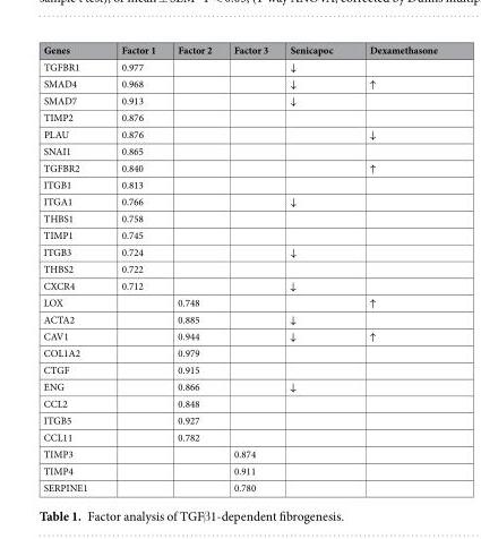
<table><thead><tr><td>Genes</td><td>Factor 1</td><td>Factor 2</td><td>Factor 3</td><td>Senicapoc</td><td>Dexamethasone</td></tr></thead><tbody><tr><td>TGFBR1</td><td>0.977</td><td></td><td></td><td>↓</td><td></td></tr><tr><td>SMAD4</td><td>0.968</td><td></td><td></td><td>↓</td><td>↑</td></tr><tr><td>SMAD7</td><td>0.913</td><td></td><td></td><td>↓</td><td></td></tr><tr><td>TIMP2</td><td>0.876</td><td></td><td></td><td></td><td></td></tr><tr><td>PLAU</td><td>0.876</td><td></td><td></td><td></td><td>↓</td></tr><tr><td>SNAI1</td><td>0.865</td><td></td><td></td><td></td><td></td></tr><tr><td>TGFBR2</td><td>0.840</td><td></td><td></td><td></td><td>↑</td></tr><tr><td>ITGB1</td><td>0.813</td><td></td><td></td><td></td><td></td></tr><tr><td>ITGA1</td><td>0.766</td><td></td><td></td><td>↓</td><td></td></tr><tr><td>THBS1</td><td>0.758</td><td></td><td></td><td></td><td></td></tr><tr><td>TIMP1</td><td>0.745</td><td></td><td></td><td></td><td></td></tr><tr><td>ITGB3</td><td>0.724</td><td></td><td></td><td>↓</td><td></td></tr><tr><td>THBS2</td><td>0.722</td><td></td><td></td><td></td><td></td></tr><tr><td>CXCR4</td><td>0.712</td><td></td><td></td><td>↓</td><td></td></tr><tr><td>LOX</td><td></td><td>0.748</td><td></td><td></td><td>↑</td></tr><tr><td>ACTA2</td><td></td><td>0.885</td><td></td><td>↓</td><td></td></tr><tr><td>CAV1</td><td></td><td>0.944</td><td></td><td>↓</td><td>↑</td></tr><tr><td>COL1A2</td><td></td><td>0.979</td><td></td><td></td><td></td></tr><tr><td>CTGF</td><td></td><td>0.915</td><td></td><td></td><td></td></tr><tr><td>ENG</td><td></td><td>0.866</td><td></td><td>↓</td><td></td></tr><tr><td>CCL2</td><td></td><td>0.848</td><td></td><td></td><td></td></tr><tr><td>ITGB5</td><td></td><td>0.927</td><td></td><td></td><td></td></tr><tr><td>CCL11</td><td></td><td>0.782</td><td></td><td></td><td></td></tr><tr><td>TIMP3</td><td></td><td></td><td>0.874</td><td></td><td></td></tr><tr><td>TIMP4</td><td></td><td></td><td>0.911</td><td></td><td></td></tr><tr><td>SERPINE1</td><td></td><td></td><td>0.780</td><td></td><td></td></tr></tbody></table>